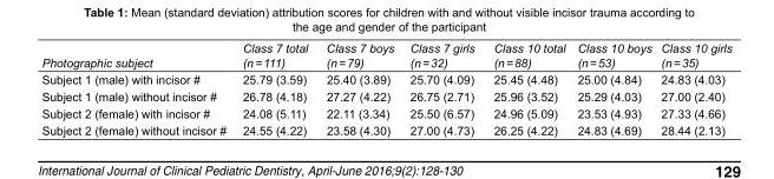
<table><tbody><tr><td>Photographic subject</td><td>Class 7 total (n = 111)</td><td>Class 7 boys (n = 79)</td><td>Class 7 girls (n = 32)</td><td>Class 10 total (n = 88)</td><td>Class 10 boys (n = 53)</td><td>Class 10 girls (n = 35)</td></tr><tr><td>Subject 1 (male) with incisor #</td><td>25.79 (3.59)</td><td>25.40 (3.89)</td><td>25.70 (4.09)</td><td>25.45 (4.48)</td><td>25.00 (4.84)</td><td>24.83 (4.03)</td></tr><tr><td>Subject 1 (male) without incisor #</td><td>26.78 (4.18)</td><td>27.27 (4.22)</td><td>26.75 (2.71)</td><td>25.96 (3.52)</td><td>25.29 (4.03)</td><td>27.00 (2.40)</td></tr><tr><td>Subject 2 (female) with incisor #</td><td>24.08 (5.11)</td><td>22.11 (3.34)</td><td>25.50 (6.57)</td><td>24.96 (5.09)</td><td>23.53 (4.93)</td><td>27.33 (4.66)</td></tr><tr><td>Subject 2 (female) without incisor #</td><td>24.55 (4.22)</td><td>23.58 (4.30)</td><td>27.00 (4.73)</td><td>26.25 (4.22)</td><td>24.83 (4.69)</td><td>28.44 (2.13)</td></tr></tbody></table>